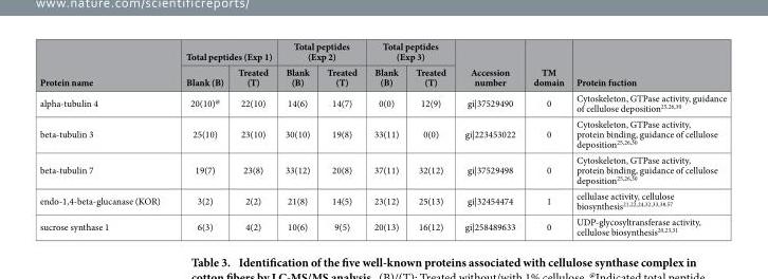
<table><thead><tr><td rowspan="2">Protein name</td><td colspan="2">Total peptides (Exp 1)</td><td colspan="2">Total peptides (Exp 2)</td><td colspan="2">Total peptides (Exp 3)</td><td rowspan="2">Accession number</td><td rowspan="2">TM domain</td><td rowspan="2">Protein fuction</td></tr><tr><td>Blank (B)</td><td>Treated (T)</td><td>Blank (B)</td><td>Treated (T)</td><td>Blank (B)</td><td>Treated (T)</td></tr></thead><tbody><tr><td>alpha-tubulin 4</td><td>20(10)@</td><td>22(10)</td><td>14(6)</td><td>14(7)</td><td>0(0)</td><td>12(9)</td><td>gi|37529490</td><td>0</td><td>Cytoskeleton, GTPase activity, guidance of cellulose deposition<sup>25</sup>,<sup>26</sup>,<sup>30</sup></td></tr><tr><td>beta-tubulin 3</td><td>25(10)</td><td>23(10)</td><td>30(10)</td><td>19(8)</td><td>33(11)</td><td>0(0)</td><td>gi|223453022</td><td>0</td><td>Cytoskeleton, GTPase activity, protein binding, guidance of cellulose deposition<sup>25</sup>,<sup>26</sup>,<sup>30</sup></td></tr><tr><td>beta-tubulin 7</td><td>19(7)</td><td>23(8)</td><td>33(12)</td><td>20(8)</td><td>37(11)</td><td>32(12)</td><td>gi|37529498</td><td>0</td><td>Cytoskeleton, GTPase activity, protein binding, guidance of cellulose deposition<sup>25</sup>,<sup>26</sup>,<sup>30</sup></td></tr><tr><td>endo-1,4-beta-glucanase (KOR)</td><td>3(2)</td><td>2(2)</td><td>21(8)</td><td>14(5)</td><td>23(12)</td><td>25(13)</td><td>gi|32454474</td><td>1</td><td>cellulase activity, cellulose biosynthesis<sup>21</sup>,<sup>22</sup>,<sup>24</sup>,<sup>32</sup>,<sup>33</sup>,<sup>38</sup>,<sup>57</sup></td></tr><tr><td>sucrose synthase 1</td><td>6(3)</td><td>4(2)</td><td>10(6)</td><td>9(5)</td><td>20(13)</td><td>16(12)</td><td>gi|258489633</td><td>0</td><td>UDP-glycosyltransferase activity, cellulose biosynthesis<sup>20</sup>,<sup>23</sup>,<sup>31</sup></td></tr></tbody></table>